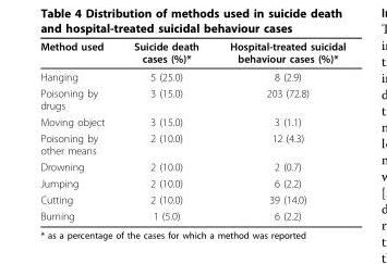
<table><thead><tr><td>Method used</td><td>Suicide death cases (%)*</td><td>Hospital-treated suicidal behaviour cases (%)*</td></tr></thead><tbody><tr><td>Hanging</td><td>5 (25.0)</td><td>8 (2.9)</td></tr><tr><td>Poisoning by drugs</td><td>3 (15.0)</td><td>203 (72.8)</td></tr><tr><td>Moving object</td><td>3 (15.0)</td><td>3 (1.1)</td></tr><tr><td>Poisoning by other means</td><td>2 (10.0)</td><td>12 (4.3)</td></tr><tr><td>Drowning</td><td>2 (10.0)</td><td>2 (0.7)</td></tr><tr><td>Jumping</td><td>2 (10.0)</td><td>6 (2.2)</td></tr><tr><td>Cutting</td><td>2 (10.0)</td><td>39 (14.0)</td></tr><tr><td>Burning</td><td>1 (5.0)</td><td>6 (2.2)</td></tr></tbody></table>